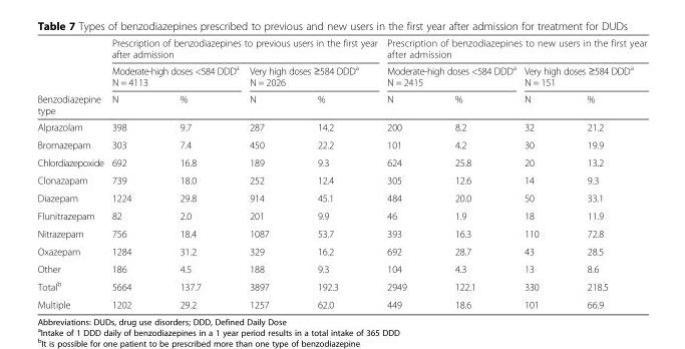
<table><thead><tr><td rowspan="3">Benzodiazepine type</td><td colspan="4">Prescription of benzodiazepines to previous users in the first year after admission</td><td colspan="4">Prescription of benzodiazepines to new users in the first year after admission</td></tr><tr><td colspan="2">Moderate-high doses &lt;584 DDD<sup>a</sup> N = 4113</td><td colspan="2">Very high doses ≥584 DDD<sup>a</sup> N = 2026</td><td colspan="2">Moderate-high doses &lt;584 DDD<sup>a</sup> N = 2415</td><td colspan="2">Very high doses ≥584 DDD<sup>a</sup> N = 151</td></tr><tr><td>N</td><td>%</td><td>N</td><td>%</td><td>N</td><td>%</td><td>N</td><td>%</td></tr></thead><tbody><tr><td>Alprazolam</td><td>398</td><td>9.7</td><td>287</td><td>14.2</td><td>200</td><td>8.2</td><td>32</td><td>21.2</td></tr><tr><td>Bromazepam</td><td>303</td><td>7.4</td><td>450</td><td>22.2</td><td>101</td><td>4.2</td><td>30</td><td>19.9</td></tr><tr><td>Chlordiazepoxide</td><td>692</td><td>16.8</td><td>189</td><td>9.3</td><td>624</td><td>25.8</td><td>20</td><td>13.2</td></tr><tr><td>Clonazapam</td><td>739</td><td>18.0</td><td>252</td><td>12.4</td><td>305</td><td>12.6</td><td>14</td><td>9.3</td></tr><tr><td>Diazepam</td><td>1224</td><td>29.8</td><td>914</td><td>45.1</td><td>484</td><td>20.0</td><td>50</td><td>33.1</td></tr><tr><td>Flunitrazepam</td><td>82</td><td>2.0</td><td>201</td><td>9.9</td><td>46</td><td>1.9</td><td>18</td><td>11.9</td></tr><tr><td>Nitrazepam</td><td>756</td><td>18.4</td><td>1087</td><td>53.7</td><td>393</td><td>16.3</td><td>110</td><td>72.8</td></tr><tr><td>Oxazepam</td><td>1284</td><td>31.2</td><td>329</td><td>16.2</td><td>692</td><td>28.7</td><td>43</td><td>28.5</td></tr><tr><td>Other</td><td>186</td><td>4.5</td><td>188</td><td>9.3</td><td>104</td><td>4.3</td><td>13</td><td>8.6</td></tr><tr><td>Total<sup>b</sup></td><td>5664</td><td>137.7</td><td>3897</td><td>192.3</td><td>2949</td><td>122.1</td><td>330</td><td>218.5</td></tr><tr><td>Multiple</td><td>1202</td><td>29.2</td><td>1257</td><td>62.0</td><td>449</td><td>18.6</td><td>101</td><td>66.9</td></tr></tbody></table>